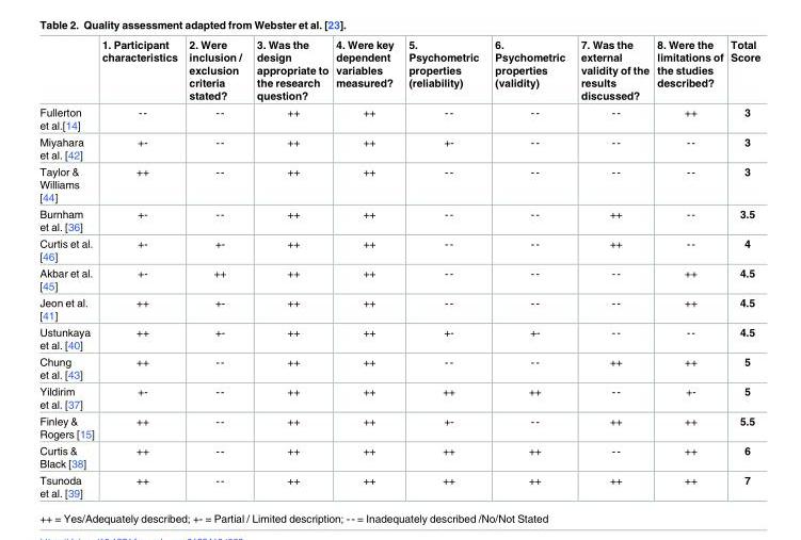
<table><thead><tr><td></td><td>1. Participant characteristics</td><td>2. Were inclusion / exclusion criteria stated?</td><td>3. Was the design appropriate to the research question?</td><td>4. Were key dependent variables measured?</td><td>5. Psychometric properties (reliability)</td><td>6. Psychometric properties (validity)</td><td>7. Was the external validity of the results discussed?</td><td>8. Were the limitations of the studies described?</td><td>Total Score</td></tr></thead><tbody><tr><td>Fullerton et al.[14]</td><td>--</td><td>--</td><td>++</td><td>++</td><td>--</td><td>--</td><td>--</td><td>++</td><td>3</td></tr><tr><td>Miyahara et al. [42]</td><td>+-</td><td>--</td><td>++</td><td>++</td><td>+-</td><td>--</td><td>--</td><td>--</td><td>3</td></tr><tr><td>Taylor &amp; Williams [44]</td><td>++</td><td>--</td><td>++</td><td>++</td><td>--</td><td>--</td><td>--</td><td>--</td><td>3</td></tr><tr><td>Burnham et al. [36]</td><td>+-</td><td>--</td><td>++</td><td>++</td><td>--</td><td>--</td><td>++</td><td>--</td><td>3.5</td></tr><tr><td>Curtis et al. [46]</td><td>+-</td><td>+-</td><td>++</td><td>++</td><td>--</td><td>--</td><td>++</td><td>--</td><td>4</td></tr><tr><td>Akbar et al. [45]</td><td>+-</td><td>++</td><td>++</td><td>++</td><td>--</td><td>--</td><td>--</td><td>++</td><td>4.5</td></tr><tr><td>Jeon et al. [41]</td><td>++</td><td>+-</td><td>++</td><td>++</td><td>--</td><td>--</td><td>--</td><td>++</td><td>4.5</td></tr><tr><td>Ustunkaya et al. [40]</td><td>++</td><td>+-</td><td>++</td><td>++</td><td>+-</td><td>+-</td><td>--</td><td>--</td><td>4.5</td></tr><tr><td>Chung et al. [43]</td><td>++</td><td>--</td><td>++</td><td>++</td><td>--</td><td>--</td><td>++</td><td>++</td><td>5</td></tr><tr><td>Yildirim et al. [37]</td><td>+-</td><td>--</td><td>++</td><td>++</td><td>++</td><td>++</td><td>--</td><td>+-</td><td>5</td></tr><tr><td>Finley &amp; Rogers [15]</td><td>++</td><td>--</td><td>++</td><td>++</td><td>+-</td><td>--</td><td>++</td><td>++</td><td>5.5</td></tr><tr><td>Curtis &amp; Black [38]</td><td>++</td><td>--</td><td>++</td><td>++</td><td>++</td><td>++</td><td>--</td><td>++</td><td>6</td></tr><tr><td>Tsunoda et al. [39]</td><td>++</td><td>--</td><td>++</td><td>++</td><td>++</td><td>++</td><td>++</td><td>++</td><td>7</td></tr></tbody></table>